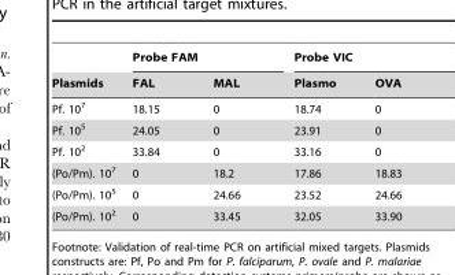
<table><thead><tr><td rowspan="2">Plasmids</td><td colspan="2">Probe FAM</td><td colspan="2">Probe VIC</td></tr><tr><td>FAL</td><td>MAL</td><td>Plasmo</td><td>OVA</td></tr></thead><tbody><tr><td>Pf. 10<sup>7</sup></td><td>18.15</td><td>0</td><td>18.74</td><td>0</td></tr><tr><td>Pf. 10<sup>5</sup></td><td>24.05</td><td>0</td><td>23.91</td><td>0</td></tr><tr><td>Pf. 10<sup>2</sup></td><td>33.84</td><td>0</td><td>33.16</td><td>0</td></tr><tr><td>(Po/Pm). 10<sup>7</sup></td><td>0</td><td>18.2</td><td>17.86</td><td>18.83</td></tr><tr><td>(Po/Pm). 10<sup>5</sup></td><td>0</td><td>24.66</td><td>23.52</td><td>24.66</td></tr><tr><td>(Po/Pm). 10<sup>2</sup></td><td>0</td><td>33.45</td><td>32.05</td><td>33.90</td></tr></tbody></table>